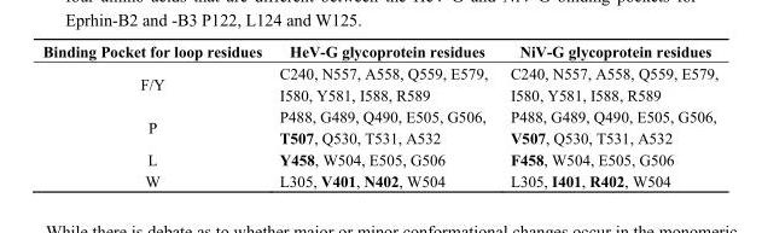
<table><thead><tr><td>Binding Pocket for loop residues</td><td>HeV-G glycoprotein residues</td><td>NiV-G glycoprotein residues</td></tr></thead><tbody><tr><td>F/Y</td><td>C240, N557, A558, Q559, E579, I580, Y581, I588, R589</td><td>C240, N557, A558, Q559, E579, I580, Y581, I588, R589</td></tr><tr><td>P</td><td>P488, G489, Q490, E505, G506, T507, Q530, T531, A532</td><td>P488, G489, Q490, E505, G506, V507, Q530, T531, A532</td></tr><tr><td>L</td><td>Y458, W504, E505, G506</td><td>F458, W504, E505, G506</td></tr><tr><td>W</td><td>L305, V401, N402, W504</td><td>L305, I401, R402, W504</td></tr></tbody></table>